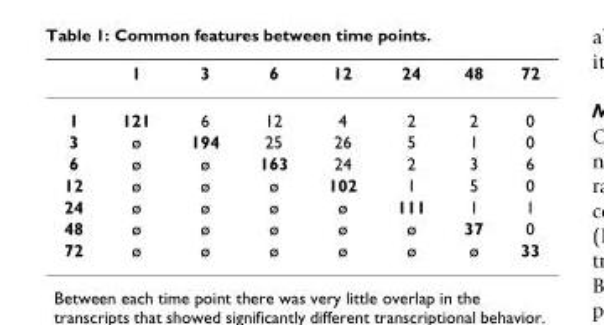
<table><thead><tr><td></td><td>1</td><td>3</td><td>6</td><td>12</td><td>24</td><td>48</td><td>72</td></tr></thead><tbody><tr><td>1</td><td>121</td><td>6</td><td>12</td><td>4</td><td>2</td><td>2</td><td>0</td></tr><tr><td>3</td><td>ø</td><td>194</td><td>25</td><td>26</td><td>5</td><td>1</td><td>0</td></tr><tr><td>6</td><td>ø</td><td>ø</td><td>163</td><td>24</td><td>2</td><td>3</td><td>6</td></tr><tr><td>12</td><td>ø</td><td>ø</td><td>ø</td><td>102</td><td>1</td><td>5</td><td>0</td></tr><tr><td>24</td><td>ø</td><td>ø</td><td>ø</td><td>ø</td><td>111</td><td>1</td><td>1</td></tr><tr><td>48</td><td>ø</td><td>ø</td><td>ø</td><td>ø</td><td>ø</td><td>37</td><td>0</td></tr><tr><td>72</td><td>ø</td><td>ø</td><td>ø</td><td>ø</td><td>ø</td><td>ø</td><td>33</td></tr></tbody></table>